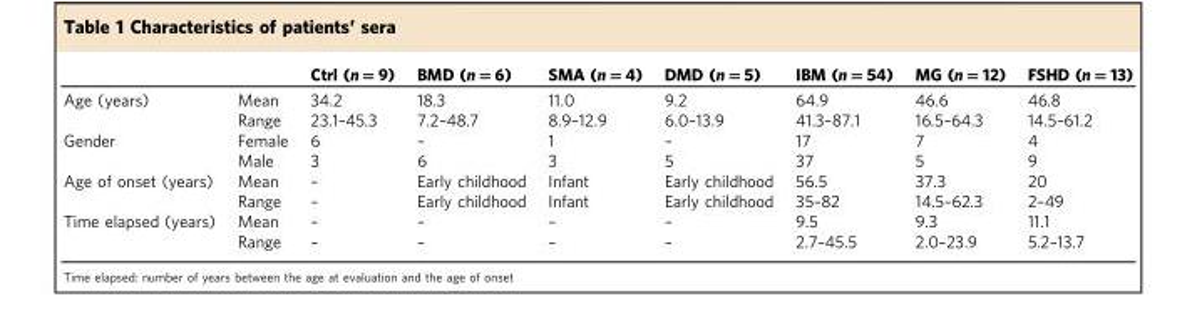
<table><thead><tr><td></td><td></td><td>Ctrl (n = 9)</td><td>BMD (n = 6)</td><td>SMA (n = 4)</td><td>DMD (n = 5)</td><td>IBM (n = 54)</td><td>MG (n = 12)</td><td>FSHD (n = 13)</td></tr></thead><tbody><tr><td rowspan="2">Age (years)</td><td>Mean</td><td>34.2</td><td>18.3</td><td>11.0</td><td>9.2</td><td>64.9</td><td>46.6</td><td>46.8</td></tr><tr><td>Range</td><td>23.1–45.3</td><td>7.2–48.7</td><td>8.9–12.9</td><td>6.0–13.9</td><td>41.3–87.1</td><td>16.5–64.3</td><td>14.5–61.2</td></tr><tr><td rowspan="2">Gender</td><td>Female</td><td>6</td><td>–</td><td>1</td><td>–</td><td>17</td><td>7</td><td>4</td></tr><tr><td>Male</td><td>3</td><td>6</td><td>3</td><td>5</td><td>37</td><td>5</td><td>9</td></tr><tr><td rowspan="2">Age of onset (years)</td><td>Mean</td><td>–</td><td>Early childhood</td><td>Infant</td><td>Early childhood</td><td>56.5</td><td>37.3</td><td>20</td></tr><tr><td>Range</td><td>–</td><td>Early childhood</td><td>Infant</td><td>Early childhood</td><td>35–82</td><td>14.5–62.3</td><td>2–49</td></tr><tr><td rowspan="2">Time elapsed (years)</td><td>Mean</td><td>–</td><td>–</td><td>–</td><td>–</td><td>9.5</td><td>9.3</td><td>11.1</td></tr><tr><td>Range</td><td>–</td><td>–</td><td>–</td><td>–</td><td>2.7–45.5</td><td>2.0–23.9</td><td>5.2–13.7</td></tr></tbody></table>